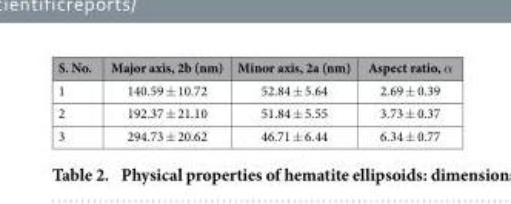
<table><thead><tr><td>S. No.</td><td>Major axis, 2b (nm)</td><td>Minor axis, 2a (nm)</td><td>Aspect ratio, α</td></tr></thead><tbody><tr><td>1</td><td>140.59 ± 10.72</td><td>52.84 ± 5.64</td><td>2.69 ± 0.39</td></tr><tr><td>2</td><td>192.37 ± 21.10</td><td>51.84 ± 5.55</td><td>3.73 ± 0.37</td></tr><tr><td>3</td><td>294.73 ± 20.62</td><td>46.71 ± 6.44</td><td>6.34 ± 0.77</td></tr></tbody></table>